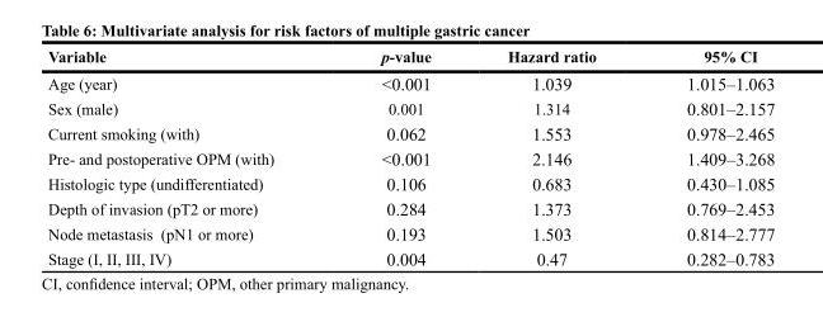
<table><thead><tr><td>Variable</td><td>p-value</td><td>Hazard ratio</td><td>95% CI</td></tr></thead><tbody><tr><td>Age (year)</td><td>&lt;0.001</td><td>1.039</td><td>1.015–1.063</td></tr><tr><td>Sex (male)</td><td>0.001</td><td>1.314</td><td>0.801–2.157</td></tr><tr><td>Current smoking (with)</td><td>0.062</td><td>1.553</td><td>0.978–2.465</td></tr><tr><td>Pre- and postoperative OPM (with)</td><td>&lt;0.001</td><td>2.146</td><td>1.409–3.268</td></tr><tr><td>Histologic type (undifferentiated)</td><td>0.106</td><td>0.683</td><td>0.430–1.085</td></tr><tr><td>Depth of invasion (pT2 or more)</td><td>0.284</td><td>1.373</td><td>0.769–2.453</td></tr><tr><td>Node metastasis (pN1 or more)</td><td>0.193</td><td>1.503</td><td>0.814–2.777</td></tr><tr><td>Stage (I, II, III, IV)</td><td>0.004</td><td>0.47</td><td>0.282–0.783</td></tr></tbody></table>